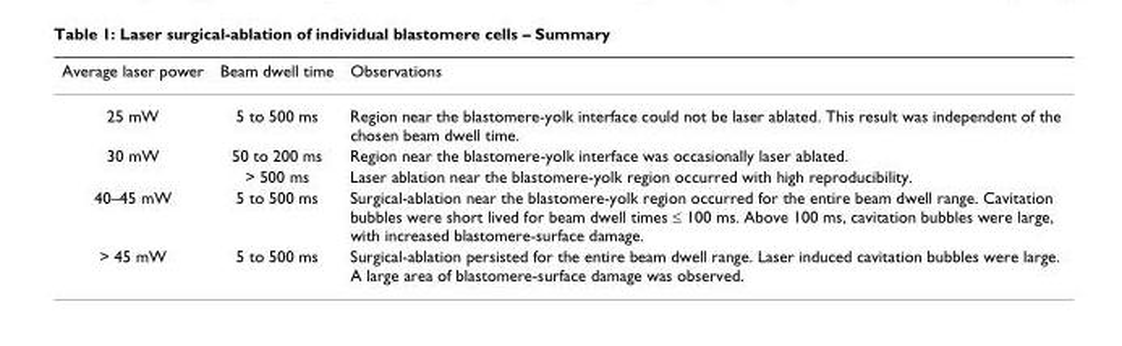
<table><thead><tr><td>Average laser power</td><td>Beam dwell time</td><td>Observations</td></tr></thead><tbody><tr><td>25 mW</td><td>5 to 500 ms</td><td>Region near the blastomere-yolk interface could not be laser ablated. This result was independent of the chosen beam dwell time.</td></tr><tr><td rowspan="2">30 mW</td><td>50 to 200 ms</td><td>Region near the blastomere-yolk interface was occasionally laser ablated.</td></tr><tr><td>&gt; 500 ms</td><td>Laser ablation near the blastomere-yolk region occurred with high reproducibility.</td></tr><tr><td>40–45 mW</td><td>5 to 500 ms</td><td>Surgical-ablation near the blastomere-yolk region occurred for the entire beam dwell range. Cavitation bubbles were short lived for beam dwell times ≤ 100 ms. Above 100 ms, cavitation bubbles were large, with increased blastomere-surface damage.</td></tr><tr><td>&gt; 45 mW</td><td>5 to 500 ms</td><td>Surgical-ablation persisted for the entire beam dwell range. Laser induced cavitation bubbles were large. A large area of blastomere-surface damage was observed.</td></tr></tbody></table>